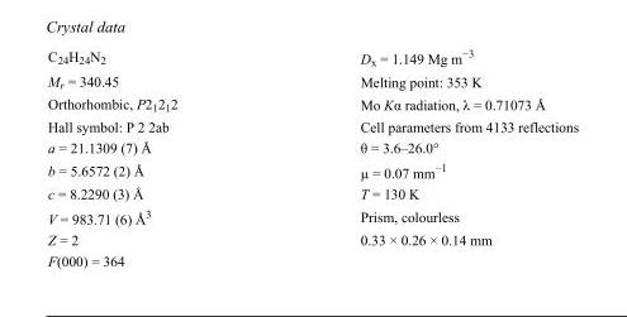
<table><tbody><tr><td>C<sub>24</sub>H<sub>24</sub>N<sub>2</sub></td><td>D<sub>x</sub> = 1.149 Mg m<sup>−3</sup></td></tr><tr><td>M<sub>r</sub> = 340.45</td><td>Melting point: 353 K</td></tr><tr><td>Orthorhombic, P2<sub>1</sub>2<sub>1</sub>2</td><td>Mo Kα radiation, λ = 0.71073 Å</td></tr><tr><td>Hall symbol: P 2 2ab</td><td>Cell parameters from 4133 reflections</td></tr><tr><td>a = 21.1309 (7) Å</td><td>θ = 3.6–26.0°</td></tr><tr><td>b = 5.6572 (2) Å</td><td>µ = 0.07 mm<sup>−1</sup></td></tr><tr><td>c = 8.2290 (3) Å</td><td>T = 130 K</td></tr><tr><td>V = 983.71 (6) Å<sup>3</sup></td><td>Prism, colourless</td></tr><tr><td>Z = 2</td><td>0.33 × 0.26 × 0.14 mm</td></tr><tr><td>F(000) = 364</td><td></td></tr></tbody></table>